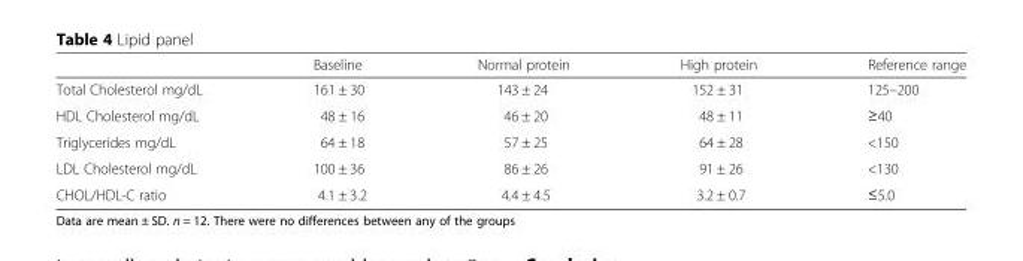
<table><thead><tr><td></td><td>Baseline</td><td>Normal protein</td><td>High protein</td><td>Reference range</td></tr></thead><tbody><tr><td>Total Cholesterol mg/dL</td><td>161 ± 30</td><td>143 ± 24</td><td>152 ± 31</td><td>125–200</td></tr><tr><td>HDL Cholesterol mg/dL</td><td>48 ± 16</td><td>46 ± 20</td><td>48 ± 11</td><td>≥40</td></tr><tr><td>Triglycerides mg/dL</td><td>64 ± 18</td><td>57 ± 25</td><td>64 ± 28</td><td>&lt;150</td></tr><tr><td>LDL Cholesterol mg/dL</td><td>100 ± 36</td><td>86 ± 26</td><td>91 ± 26</td><td>&lt;130</td></tr><tr><td>CHOL/HDL-C ratio</td><td>4.1 ± 3.2</td><td>4.4 ± 4.5</td><td>3.2 ± 0.7</td><td>≤5.0</td></tr></tbody></table>